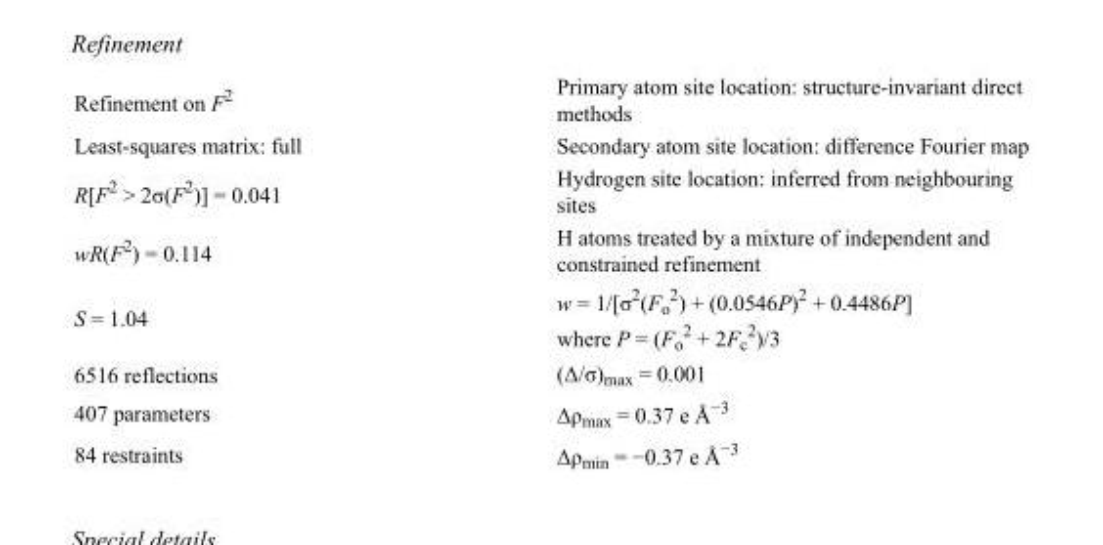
<table><tbody><tr><td>Refinement on F<sup>2</sup></td><td>Primary atom site location: structure-invariant direct methods</td></tr><tr><td>Least-squares matrix: full</td><td>Secondary atom site location: difference Fourier map</td></tr><tr><td>R[F<sup>2</sup> &gt; 2σ(F<sup>2</sup>)] = 0.041</td><td>Hydrogen site location: inferred from neighbouring sites</td></tr><tr><td>wR(F<sup>2</sup>) = 0.114</td><td>H atoms treated by a mixture of independent and constrained refinement</td></tr><tr><td>S = 1.04</td><td>w = 1/[σ<sup>2</sup>(F<sub>o</sub> <sup>2</sup>) + (0.0546P)<sup>2</sup> + 0.4486P] where P = (F<sub>o</sub> <sup>2</sup> + 2F<sub>c</sub> <sup>2</sup>)/3</td></tr><tr><td>6516 reflections</td><td>(Δ/σ)<sub>max</sub> = 0.001</td></tr><tr><td>407 parameters</td><td>Δρ<sub>max</sub> = 0.37 e Å<sup>−3</sup></td></tr><tr><td>84 restraints</td><td>Δρ<sub>min</sub> = −0.37 e Å<sup>−3</sup></td></tr></tbody></table>